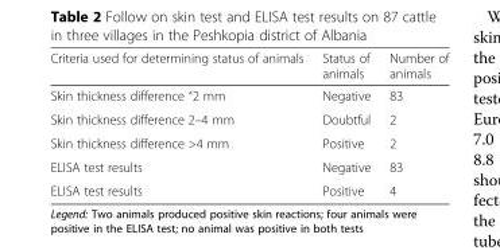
<table><thead><tr><td>Criteria used for determining status of animals</td><td>Status of animals</td><td>Number of animals</td></tr></thead><tbody><tr><td>Skin thickness difference ˂2 mm</td><td>Negative</td><td>83</td></tr><tr><td>Skin thickness difference 2–4 mm</td><td>Doubtful</td><td>2</td></tr><tr><td>Skin thickness difference &gt;4 mm</td><td>Positive</td><td>2</td></tr><tr><td>ELISA test results</td><td>Negative</td><td>83</td></tr><tr><td>ELISA test results</td><td>Positive</td><td>4</td></tr></tbody></table>